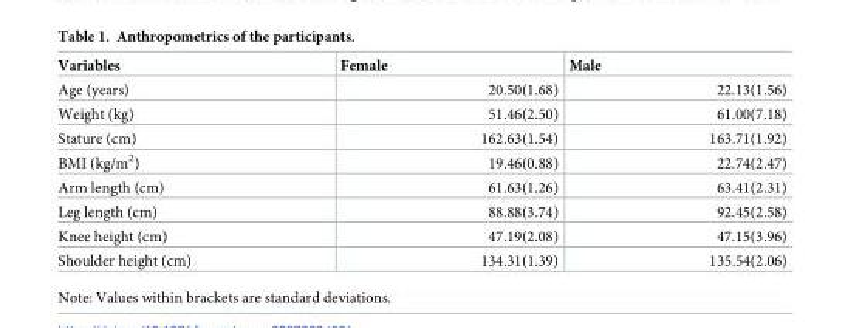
<table><thead><tr><td>Variables</td><td>Female</td><td>Male</td></tr></thead><tbody><tr><td>Age (years)</td><td>20.50(1.68)</td><td>22.13(1.56)</td></tr><tr><td>Weight (kg)</td><td>51.46(2.50)</td><td>61.00(7.18)</td></tr><tr><td>Stature (cm)</td><td>162.63(1.54)</td><td>163.71(1.92)</td></tr><tr><td>BMI (kg/m<sup>2</sup>)</td><td>19.46(0.88)</td><td>22.74(2.47)</td></tr><tr><td>Arm length (cm)</td><td>61.63(1.26)</td><td>63.41(2.31)</td></tr><tr><td>Leg length (cm)</td><td>88.88(3.74)</td><td>92.45(2.58)</td></tr><tr><td>Knee height (cm)</td><td>47.19(2.08)</td><td>47.15(3.96)</td></tr><tr><td>Shoulder height (cm)</td><td>134.31(1.39)</td><td>135.54(2.06)</td></tr></tbody></table>